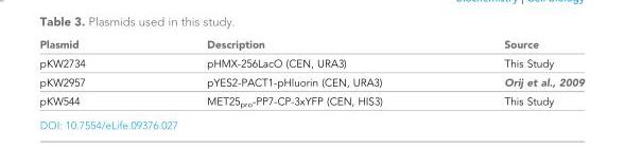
<table><thead><tr><td>Plasmid</td><td>Description</td><td>Source</td></tr></thead><tbody><tr><td>pKW2734</td><td>pHMX-256LacO (CEN, URA3)</td><td>This Study</td></tr><tr><td>pKW2957</td><td>pYES2-PACT1-pHluorin (CEN, URA3)</td><td>Orij et al., 2009</td></tr><tr><td>pKW544</td><td>MET25<sub>pro</sub>-PP7-CP-3xYFP (CEN, HIS3)</td><td>This Study</td></tr></tbody></table>